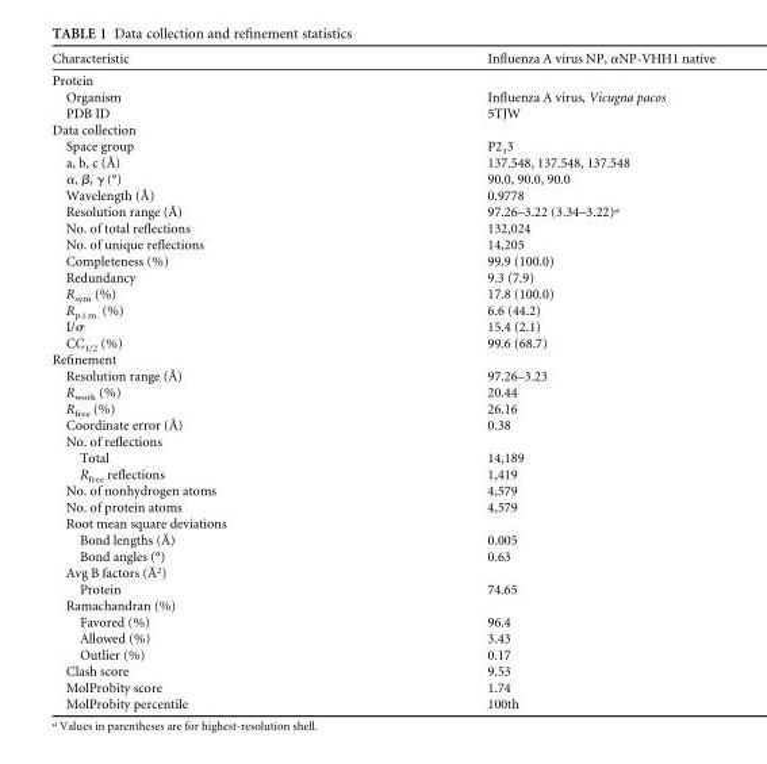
<table><thead><tr><td>Characteristic</td><td>Influenza A virus NP, αNP-VHH1 native</td></tr></thead><tbody><tr><td colspan="2">Protein</td></tr><tr><td>Organism</td><td>Influenza A virus, Vicugna pacos</td></tr><tr><td>PDB ID</td><td>5TJW</td></tr><tr><td colspan="2">Data collection</td></tr><tr><td>Space group</td><td>P2<sub>1</sub>3</td></tr><tr><td>a, b, c (Å)</td><td>137.548, 137.548, 137.548</td></tr><tr><td>α, β, γ (°)</td><td>90.0, 90.0, 90.0</td></tr><tr><td>Wavelength (Å)</td><td>0.9778</td></tr><tr><td>Resolution range (Å)</td><td>97.26–3.22 (3.34–3.22)<sup>a</sup></td></tr><tr><td>No. of total reflections</td><td>132,024</td></tr><tr><td>No. of unique reflections</td><td>14,205</td></tr><tr><td>Completeness (%)</td><td>99.9 (100.0)</td></tr><tr><td>Redundancy</td><td>9.3 (7.9)</td></tr><tr><td>R<sub>sym</sub> (%)</td><td>17.8 (100.0)</td></tr><tr><td>R<sub>p.i.m.</sub> (%)</td><td>6.6 (44.2)</td></tr><tr><td>I/σ</td><td>15.4 (2.1)</td></tr><tr><td>CC<sub>1/2</sub> (%)</td><td>99.6 (68.7)</td></tr><tr><td colspan="2">Refinement</td></tr><tr><td>Resolution range (Å)</td><td>97.26–3.23</td></tr><tr><td>R<sub>work</sub> (%)</td><td>20.44</td></tr><tr><td>R<sub>free</sub> (%)</td><td>26.16</td></tr><tr><td>Coordinate error (Å)</td><td>0.38</td></tr><tr><td colspan="2">No. of reflections</td></tr><tr><td>Total</td><td>14,189</td></tr><tr><td>R<sub>free</sub> reflections</td><td>1,419</td></tr><tr><td>No. of nonhydrogen atoms</td><td>4,579</td></tr><tr><td>No. of protein atoms</td><td>4,579</td></tr><tr><td colspan="2">Root mean square deviations</td></tr><tr><td>Bond lengths (Å)</td><td>0.005</td></tr><tr><td>Bond angles (°)</td><td>0.63</td></tr><tr><td colspan="2">Avg B factors (Å<sup>2</sup>)</td></tr><tr><td>Protein</td><td>74.65</td></tr><tr><td colspan="2">Ramachandran (%)</td></tr><tr><td>Favored (%)</td><td>96.4</td></tr><tr><td>Allowed (%)</td><td>3.43</td></tr><tr><td>Outlier (%)</td><td>0.17</td></tr><tr><td>Clash score</td><td>9.53</td></tr><tr><td>MolProbity score</td><td>1.74</td></tr><tr><td>MolProbity percentile</td><td>100th</td></tr></tbody></table>